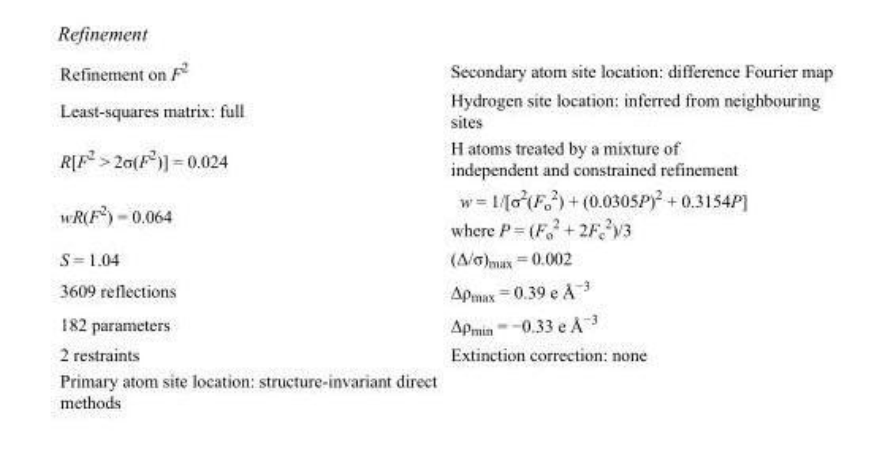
<table><tbody><tr><td>Refinement on F<sup>2</sup></td><td>Secondary atom site location: difference Fourier map</td></tr><tr><td>Least-squares matrix: full</td><td>Hydrogen site location: inferred from neighbouring sites</td></tr><tr><td>R[F<sup>2</sup> &gt; 2σ(F<sup>2</sup>)] = 0.024</td><td>H atoms treated by a mixture of independent and constrained refinement</td></tr><tr><td>wR(F<sup>2</sup>) = 0.064</td><td>w = 1/[σ<sup>2</sup>(F<sub>o</sub> <sup>2</sup>) + (0.0305P)<sup>2</sup> + 0.3154P] where P = (F<sub>o</sub> <sup>2</sup> + 2F<sub>c</sub> <sup>2</sup>)/3</td></tr><tr><td>S = 1.04</td><td>(Δ/σ)<sub>max</sub> = 0.002</td></tr><tr><td>3609 reflections</td><td>Δρ<sub>max</sub> = 0.39 e Å<sup>−3</sup></td></tr><tr><td>182 parameters</td><td>Δρ<sub>min</sub> = −0.33 e Å<sup>−3</sup></td></tr><tr><td>2 restraints</td><td>Extinction correction: none</td></tr><tr><td>Primary atom site location: structure-invariant direct methods</td><td></td></tr></tbody></table>